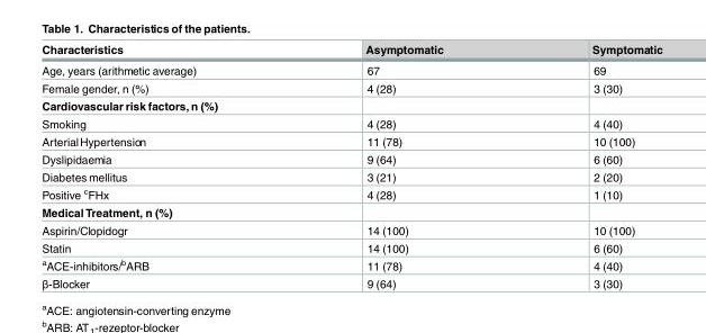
<table><thead><tr><td>Characteristics</td><td>Asymptomatic</td><td>Symptomatic</td></tr></thead><tbody><tr><td>Age, years (arithmetic average)</td><td>67</td><td>69</td></tr><tr><td>Female gender, n (%)</td><td>4 (28)</td><td>3 (30)</td></tr><tr><td colspan="3">Cardiovascular risk factors, n (%)</td></tr><tr><td>Smoking</td><td>4 (28)</td><td>4 (40)</td></tr><tr><td>ArterialHypertension</td><td>11 (78)</td><td>10 (100)</td></tr><tr><td>Dyslipidaemia</td><td>9 (64)</td><td>6 (60)</td></tr><tr><td>Diabetes mellitus</td><td>3 (21)</td><td>2 (20)</td></tr><tr><td>Positive <sup>c</sup>FHx</td><td>4 (28)</td><td>1 (10)</td></tr><tr><td colspan="3">Medical Treatment, n (%)</td></tr><tr><td>Aspirin/Clopidogr</td><td>14 (100)</td><td>10 (100)</td></tr><tr><td>Statin</td><td>14 (100)</td><td>6 (60)</td></tr><tr><td><sup>a</sup>ACE-inhibitors/<sup>b</sup>ARB</td><td>11 (78)</td><td>4 (40)</td></tr><tr><td>β-Blocker</td><td>9 (64)</td><td>3 (30)</td></tr></tbody></table>